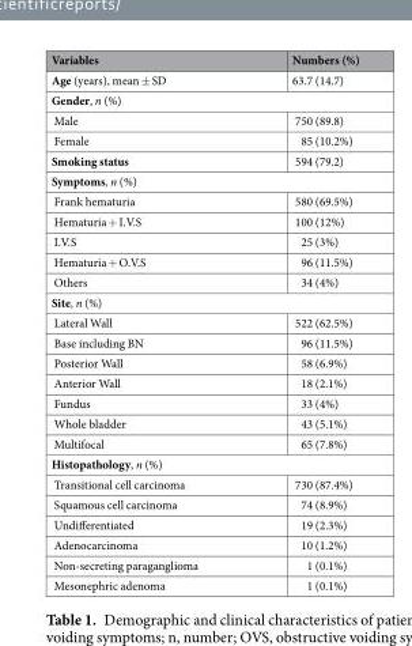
<table><thead><tr><td>Variables</td><td>Numbers (%)</td></tr></thead><tbody><tr><td>Age (years), mean ± SD</td><td>63.7 (14.7)</td></tr><tr><td colspan="2">Gender, n (%)</td></tr><tr><td>Male</td><td>750 (89.8)</td></tr><tr><td>Female</td><td>85 (10.2%)</td></tr><tr><td>Smoking status</td><td>594 (79.2)</td></tr><tr><td colspan="2">Symptoms, n (%)</td></tr><tr><td>Frank hematuria</td><td>580 (69.5%)</td></tr><tr><td>Hematuria + I.V.S</td><td>100 (12%)</td></tr><tr><td>I.V.S</td><td>25 (3%)</td></tr><tr><td>Hematuria + O.V.S</td><td>96 (11.5%)</td></tr><tr><td>Others</td><td>34 (4%)</td></tr><tr><td colspan="2">Site, n (%)</td></tr><tr><td>Lateral Wall</td><td>522 (62.5%)</td></tr><tr><td>Base including BN</td><td>96 (11.5%)</td></tr><tr><td>Posterior Wall</td><td>58 (6.9%)</td></tr><tr><td>Anterior Wall</td><td>18 (2.1%)</td></tr><tr><td>Fundus</td><td>33 (4%)</td></tr><tr><td>Whole bladder</td><td>43 (5.1%)</td></tr><tr><td>Multifocal</td><td>65 (7.8%)</td></tr><tr><td colspan="2">Histopathology, n (%)</td></tr><tr><td>Transitional cell carcinoma</td><td>730 (87.4%)</td></tr><tr><td>Squamous cell carcinoma</td><td>74 (8.9%)</td></tr><tr><td>Undifferentiated</td><td>19 (2.3%)</td></tr><tr><td>Adenocarcinoma</td><td>10 (1.2%)</td></tr><tr><td>Non-secreting paraganglioma</td><td>1 (0.1%)</td></tr><tr><td>Mesonephric adenoma</td><td>1 (0.1%)</td></tr></tbody></table>